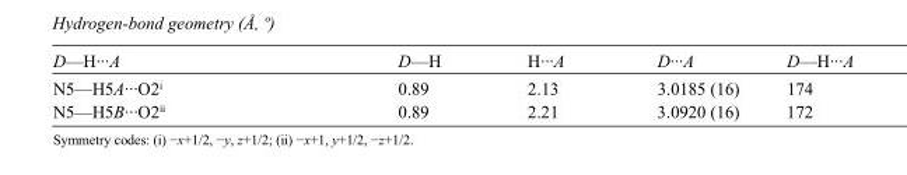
<table><tbody><tr><td>D—H···A</td><td>D—H</td><td>H···A</td><td>D···A</td><td>D—H···A</td></tr><tr><td>N5—H5A···O2<sup>i</sup></td><td>0.89</td><td>2.13</td><td>3.0185 (16)</td><td>174</td></tr><tr><td>N5—H5B···O2<sup>ii</sup></td><td>0.89</td><td>2.21</td><td>3.0920 (16)</td><td>172</td></tr></tbody></table>